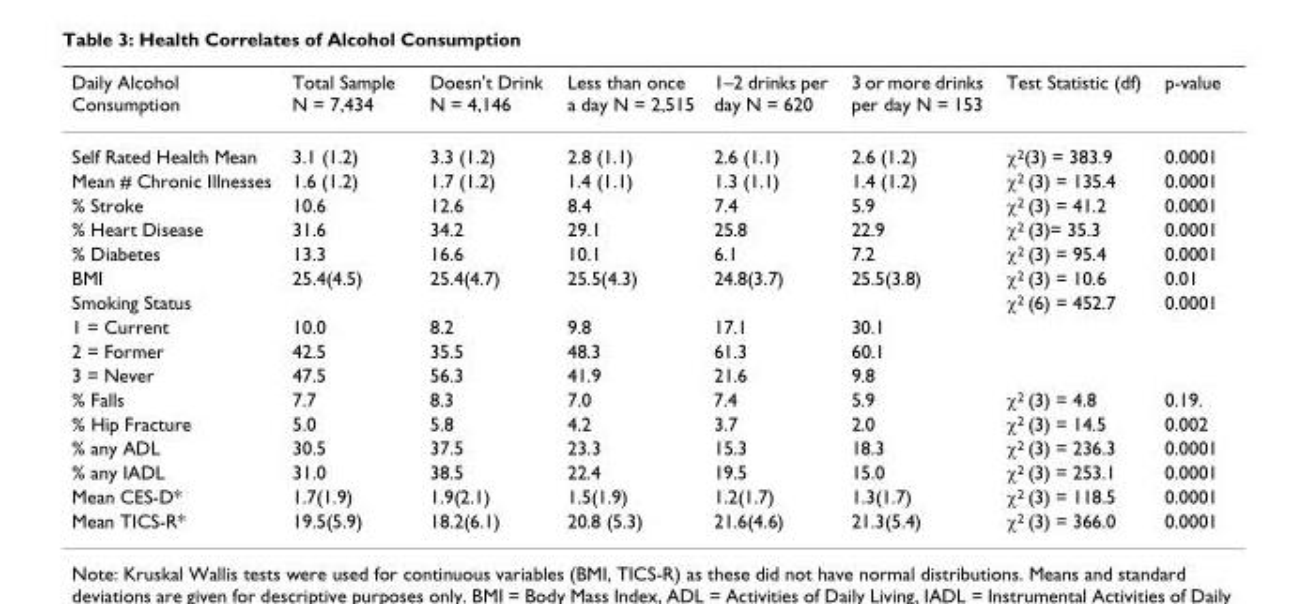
<table><thead><tr><td>Daily Alcohol Consumption</td><td>Total Sample N = 7,434</td><td>Doesn&#x27;t Drink N = 4,146</td><td>Less than once a day N = 2,515</td><td>1–2 drinks per day N = 620</td><td>3 or more drinks per day N = 153</td><td>Test Statistic (df)</td><td>p-value</td></tr></thead><tbody><tr><td>Self Rated Health Mean</td><td>3.1 (1.2)</td><td>3.3 (1.2)</td><td>2.8 (1.1)</td><td>2.6 (1.1)</td><td>2.6 (1.2)</td><td>χ<sup>2</sup>(3) = 383.9</td><td>0.0001</td></tr><tr><td>Mean # Chronic Illnesses</td><td>1.6 (1.2)</td><td>1.7 (1.2)</td><td>1.4 (1.1)</td><td>1.3 (1.1)</td><td>1.4 (1.2)</td><td>χ<sup>2</sup> (3) = 135.4</td><td>0.0001</td></tr><tr><td>% Stroke</td><td>10.6</td><td>12.6</td><td>8.4</td><td>7.4</td><td>5.9</td><td>χ<sup>2</sup> (3) = 41.2</td><td>0.0001</td></tr><tr><td>% Heart Disease</td><td>31.6</td><td>34.2</td><td>29.1</td><td>25.8</td><td>22.9</td><td>χ<sup>2</sup> (3)= 35.3</td><td>0.0001</td></tr><tr><td>% Diabetes</td><td>13.3</td><td>16.6</td><td>10.1</td><td>6.1</td><td>7.2</td><td>χ<sup>2</sup> (3) = 95.4</td><td>0.0001</td></tr><tr><td>BMI</td><td>25.4(4.5)</td><td>25.4(4.7)</td><td>25.5(4.3)</td><td>24.8(3.7)</td><td>25.5(3.8)</td><td>χ<sup>2</sup> (3) = 10.6</td><td>0.01</td></tr><tr><td>Smoking Status</td><td></td><td></td><td></td><td></td><td></td><td>χ<sup>2</sup> (6) = 452.7</td><td>0.0001</td></tr><tr><td>1 = Current</td><td>10.0</td><td>8.2</td><td>9.8</td><td>17.1</td><td>30.1</td><td></td><td></td></tr><tr><td>2 = Former</td><td>42.5</td><td>35.5</td><td>48.3</td><td>61.3</td><td>60.1</td><td></td><td></td></tr><tr><td>3 = Never</td><td>47.5</td><td>56.3</td><td>41.9</td><td>21.6</td><td>9.8</td><td></td><td></td></tr><tr><td>% Falls</td><td>7.7</td><td>8.3</td><td>7.0</td><td>7.4</td><td>5.9</td><td>χ<sup>2</sup> (3) = 4.8</td><td>0.19.</td></tr><tr><td>% Hip Fracture</td><td>5.0</td><td>5.8</td><td>4.2</td><td>3.7</td><td>2.0</td><td>χ<sup>2</sup> (3) = 14.5</td><td>0.002</td></tr><tr><td>% any ADL</td><td>30.5</td><td>37.5</td><td>23.3</td><td>15.3</td><td>18.3</td><td>χ<sup>2</sup> (3) = 236.3</td><td>0.0001</td></tr><tr><td>% any IADL</td><td>31.0</td><td>38.5</td><td>22.4</td><td>19.5</td><td>15.0</td><td>χ<sup>2</sup> (3) = 253.1</td><td>0.0001</td></tr><tr><td>Mean CES-D*</td><td>1.7(1.9)</td><td>1.9(2.1)</td><td>1.5(1.9)</td><td>1.2(1.7)</td><td>1.3(1.7)</td><td>χ<sup>2</sup> (3) = 118.5</td><td>0.0001</td></tr><tr><td>Mean TICS-R*</td><td>19.5(5.9)</td><td>18.2(6.1)</td><td>20.8 (5.3)</td><td>21.6(4.6)</td><td>21.3(5.4)</td><td>χ<sup>2</sup> (3) = 366.0</td><td>0.0001</td></tr></tbody></table>